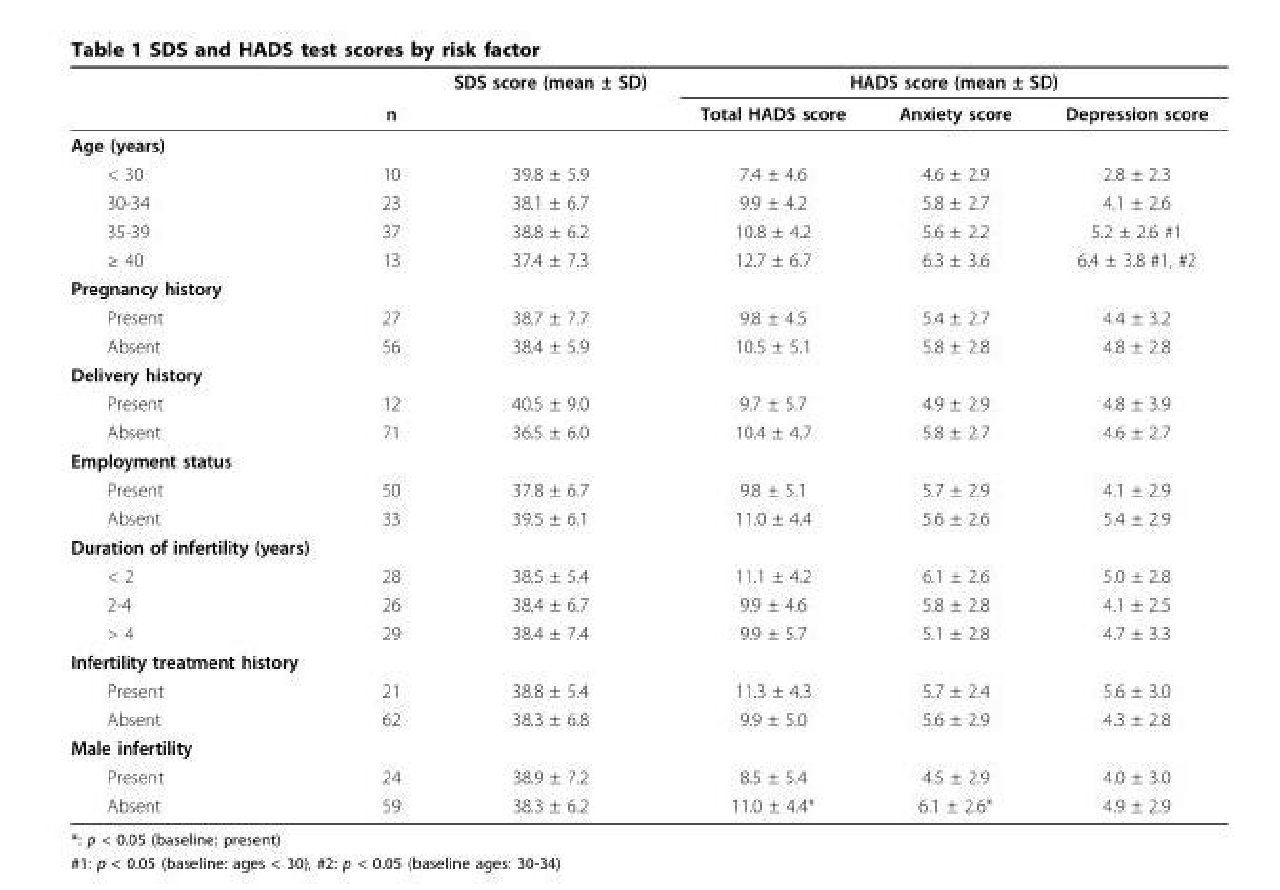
<table><thead><tr><td rowspan="2"></td><td rowspan="2">n</td><td rowspan="2">SDS score (mean ± SD)</td><td colspan="3">HADS score (mean ± SD)</td></tr><tr><td>Total HADS score</td><td>Anxiety score</td><td>Depression score</td></tr></thead><tbody><tr><td colspan="6">Age (years)</td></tr><tr><td>&lt; 30</td><td>10</td><td>39.8 ± 5.9</td><td>7.4 ± 4.6</td><td>4.6 ± 2.9</td><td>2.8 ± 2.3</td></tr><tr><td>30-34</td><td>23</td><td>38.1 ± 6.7</td><td>9.9 ± 4.2</td><td>5.8 ± 2.7</td><td>4.1 ± 2.6</td></tr><tr><td>35-39</td><td>37</td><td>38.8 ± 6.2</td><td>10.8 ± 4.2</td><td>5.6 ± 2.2</td><td>5.2 ± 2.6 #1</td></tr><tr><td>≥ 40</td><td>13</td><td>37.4 ± 7.3</td><td>12.7 ± 6.7</td><td>6.3 ± 3.6</td><td>6.4 ± 3.8 #1, #2</td></tr><tr><td colspan="6">Pregnancy history</td></tr><tr><td>Present</td><td>27</td><td>38.7 ± 7.7</td><td>9.8 ± 4.5</td><td>5.4 ± 2.7</td><td>4.4 ± 3.2</td></tr><tr><td>Absent</td><td>56</td><td>38.4 ± 5.9</td><td>10.5 ± 5.1</td><td>5.8 ± 2.8</td><td>4.8 ± 2.8</td></tr><tr><td colspan="6">Delivery history</td></tr><tr><td>Present</td><td>12</td><td>40.5 ± 9.0</td><td>9.7 ± 5.7</td><td>4.9 ± 2.9</td><td>4.8 ± 3.9</td></tr><tr><td>Absent</td><td>71</td><td>36.5 ± 6.0</td><td>10.4 ± 4.7</td><td>5.8 ± 2.7</td><td>4.6 ± 2.7</td></tr><tr><td colspan="6">Employment status</td></tr><tr><td>Present</td><td>50</td><td>37.8 ± 6.7</td><td>9.8 ± 5.1</td><td>5.7 ± 2.9</td><td>4.1 ± 2.9</td></tr><tr><td>Absent</td><td>33</td><td>39.5 ± 6.1</td><td>11.0 ± 4.4</td><td>5.6 ± 2.6</td><td>5.4 ± 2.9</td></tr><tr><td colspan="6">Duration of infertility (years)</td></tr><tr><td>&lt; 2</td><td>28</td><td>38.5 ± 5.4</td><td>11.1 ± 4.2</td><td>6.1 ± 2.6</td><td>5.0 ± 2.8</td></tr><tr><td>2-4</td><td>26</td><td>38.4 ± 6.7</td><td>9.9 ± 4.6</td><td>5.8 ± 2.8</td><td>4.1 ± 2.5</td></tr><tr><td>&gt; 4</td><td>29</td><td>38.4 ± 7.4</td><td>9.9 ± 5.7</td><td>5.1 ± 2.8</td><td>4.7 ± 3.3</td></tr><tr><td colspan="6">Infertility treatment history</td></tr><tr><td>Present</td><td>21</td><td>38.8 ± 5.4</td><td>11.3 ± 4.3</td><td>5.7 ± 2.4</td><td>5.6 ± 3.0</td></tr><tr><td>Absent</td><td>62</td><td>38.3 ± 6.8</td><td>9.9 ± 5.0</td><td>5.6 ± 2.9</td><td>4.3 ± 2.8</td></tr><tr><td colspan="6">Male infertility</td></tr><tr><td>Present</td><td>24</td><td>38.9 ± 7.2</td><td>8.5 ± 5.4</td><td>4.5 ± 2.9</td><td>4.0 ± 3.0</td></tr><tr><td>Absent</td><td>59</td><td>38.3 ± 6.2</td><td>11.0 ± 4.4*</td><td>6.1 ± 2.6*</td><td>4.9 ± 2.9</td></tr></tbody></table>